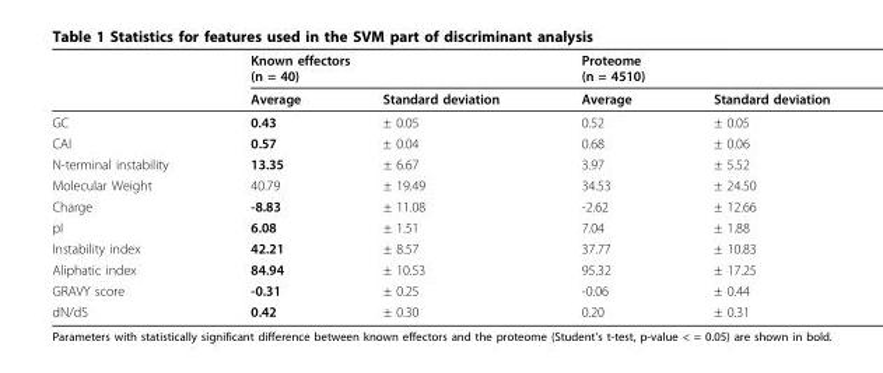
<table><thead><tr><td rowspan="2"></td><td colspan="2">Known effectors (n = 40)</td><td colspan="2">Proteome (n = 4510)</td></tr><tr><td>Average</td><td>Standard deviation</td><td>Average</td><td>Standard deviation</td></tr></thead><tbody><tr><td>GC</td><td>0.43</td><td>± 0.05</td><td>0.52</td><td>± 0.05</td></tr><tr><td>CAI</td><td>0.57</td><td>± 0.04</td><td>0.68</td><td>± 0.06</td></tr><tr><td>N-terminal instability</td><td>13.35</td><td>± 6.67</td><td>3.97</td><td>± 5.52</td></tr><tr><td>Molecular Weight</td><td>40.79</td><td>± 19.49</td><td>34.53</td><td>± 24.50</td></tr><tr><td>Charge</td><td>-8.83</td><td>± 11.08</td><td>-2.62</td><td>± 12.66</td></tr><tr><td>pI</td><td>6.08</td><td>± 1.51</td><td>7.04</td><td>± 1.88</td></tr><tr><td>Instability index</td><td>42.21</td><td>± 8.57</td><td>37.77</td><td>± 10.83</td></tr><tr><td>Aliphatic index</td><td>84.94</td><td>± 10.53</td><td>95.32</td><td>± 17.25</td></tr><tr><td>GRAVY score</td><td>-0.31</td><td>± 0.25</td><td>-0.06</td><td>± 0.44</td></tr><tr><td>dN/dS</td><td>0.42</td><td>± 0.30</td><td>0.20</td><td>± 0.31</td></tr></tbody></table>